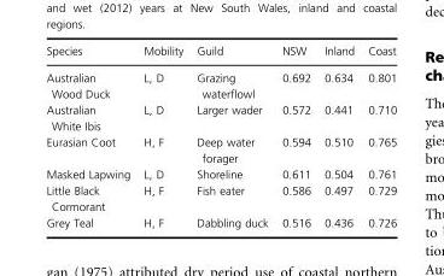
<table><thead><tr><td>Species</td><td>Mobility</td><td>Guild</td><td>NSW</td><td>Inland</td><td>Coast</td></tr></thead><tbody><tr><td>Australian Wood Duck</td><td>L, D</td><td>Grazing waterflowl</td><td>0.692</td><td>0.634</td><td>0.801</td></tr><tr><td>Australian White Ibis</td><td>L, D</td><td>Larger wader</td><td>0.572</td><td>0.441</td><td>0.710</td></tr><tr><td>Eurasian Coot</td><td>H, F</td><td>Deep water forager</td><td>0.594</td><td>0.510</td><td>0.765</td></tr><tr><td>Masked Lapwing</td><td>L, D</td><td>Shoreline</td><td>0.611</td><td>0.504</td><td>0.761</td></tr><tr><td>Little Black Cormorant</td><td>H, F</td><td>Fish eater</td><td>0.586</td><td>0.497</td><td>0.729</td></tr><tr><td>Grey Teal</td><td>H, F</td><td>Dabbling duck</td><td>0.516</td><td>0.436</td><td>0.726</td></tr></tbody></table>